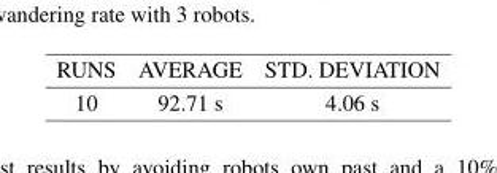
<table><thead><tr><td>RUNS</td><td>AVERAGE</td><td>STD. DEVIATION</td></tr></thead><tbody><tr><td>10</td><td>92.71 s</td><td>4.06 s</td></tr></tbody></table>